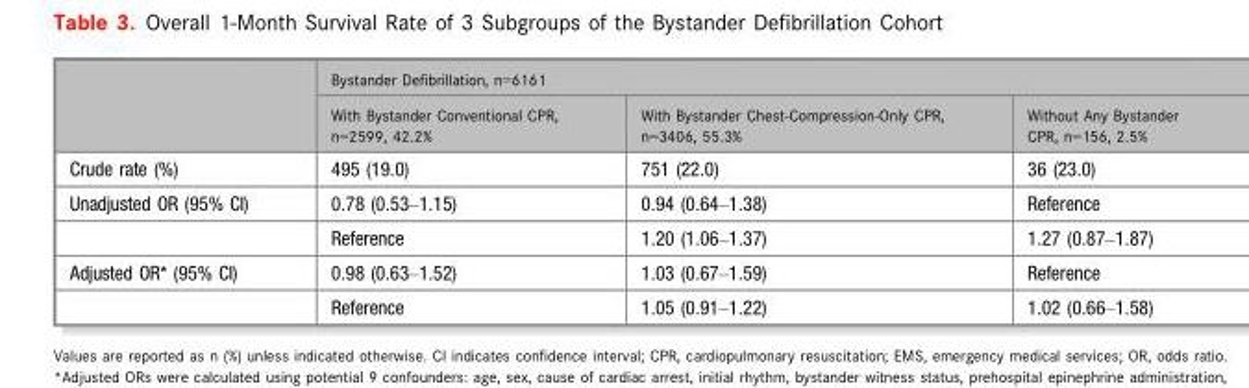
<table><thead><tr><td rowspan="2"></td><td colspan="3">Bystander Defibrillation, n=6161</td></tr><tr><td>With Bystander Conventional CPR, n=2599, 42.2%</td><td>With Bystander Chest-Compression-Only CPR, n=3406, 55.3%</td><td>Without Any Bystander CPR, n=156, 2.5%</td></tr></thead><tbody><tr><td>Crude rate (%)</td><td>495 (19.0)</td><td>751 (22.0)</td><td>36 (23.0)</td></tr><tr><td rowspan="2">Unadjusted OR (95% CI)</td><td>0.78 (0.53–1.15)</td><td>0.94 (0.64–1.38)</td><td>Reference</td></tr><tr><td>Reference</td><td>1.20 (1.06–1.37)</td><td>1.27 (0.87–1.87)</td></tr><tr><td rowspan="2">Adjusted OR* (95% CI)</td><td>0.98 (0.63–1.52)</td><td>1.03 (0.67–1.59)</td><td>Reference</td></tr><tr><td>Reference</td><td>1.05 (0.91–1.22)</td><td>1.02 (0.66–1.58)</td></tr></tbody></table>